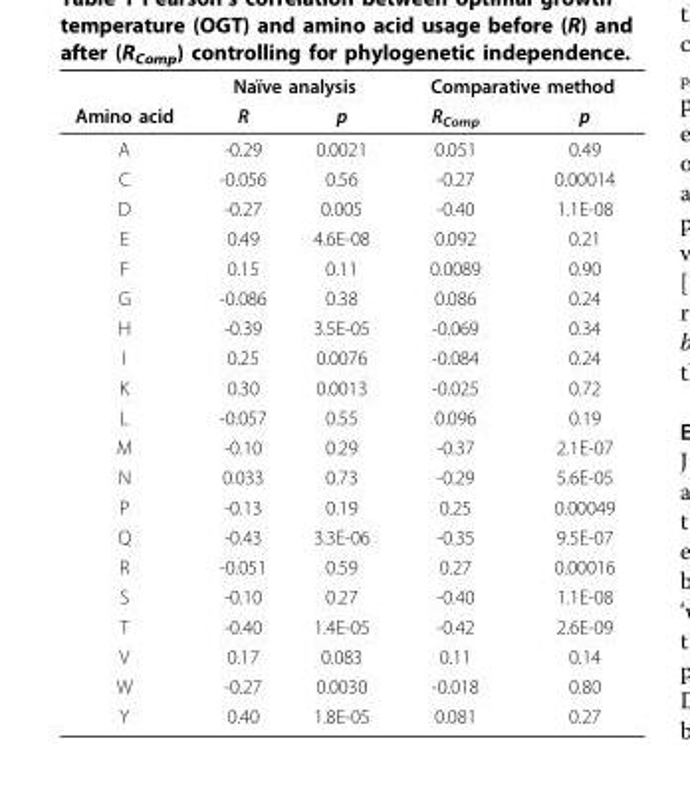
<table><thead><tr><td rowspan="2">Amino acid</td><td colspan="2">Naïve analysis</td><td colspan="2">Comparative method</td></tr><tr><td>R</td><td>p</td><td>R<sub>Comp</sub></td><td>p</td></tr></thead><tbody><tr><td>A</td><td>-0.29</td><td>0.0021</td><td>0.051</td><td>0.49</td></tr><tr><td>C</td><td>-0.056</td><td>0.56</td><td>-0.27</td><td>0.00014</td></tr><tr><td>D</td><td>-0.27</td><td>0.005</td><td>-0.40</td><td>1.1E-08</td></tr><tr><td>E</td><td>0.49</td><td>4.6E-08</td><td>0.092</td><td>0.21</td></tr><tr><td>F</td><td>0.15</td><td>0.11</td><td>0.0089</td><td>0.90</td></tr><tr><td>G</td><td>-0.086</td><td>0.38</td><td>0.086</td><td>0.24</td></tr><tr><td>H</td><td>-0.39</td><td>3.5E-05</td><td>-0.069</td><td>0.34</td></tr><tr><td>I</td><td>0.25</td><td>0.0076</td><td>-0.084</td><td>0.24</td></tr><tr><td>K</td><td>0.30</td><td>0.0013</td><td>-0.025</td><td>0.72</td></tr><tr><td>L</td><td>-0.057</td><td>0.55</td><td>0.096</td><td>0.19</td></tr><tr><td>M</td><td>-0.10</td><td>0.29</td><td>-0.37</td><td>2.1E-07</td></tr><tr><td>N</td><td>0.033</td><td>0.73</td><td>-0.29</td><td>5.6E-05</td></tr><tr><td>P</td><td>-0.13</td><td>0.19</td><td>0.25</td><td>0.00049</td></tr><tr><td>Q</td><td>-0.43</td><td>3.3E-06</td><td>-0.35</td><td>9.5E-07</td></tr><tr><td>R</td><td>-0.051</td><td>0.59</td><td>0.27</td><td>0.00016</td></tr><tr><td>S</td><td>-0.10</td><td>0.27</td><td>-0.40</td><td>1.1E-08</td></tr><tr><td>T</td><td>-0.40</td><td>1.4E-05</td><td>-0.42</td><td>2.6E-09</td></tr><tr><td>V</td><td>0.17</td><td>0.083</td><td>0.11</td><td>0.14</td></tr><tr><td>W</td><td>-0.27</td><td>0.0030</td><td>-0.018</td><td>0.80</td></tr><tr><td>Y</td><td>0.40</td><td>1.8E-05</td><td>0.081</td><td>0.27</td></tr></tbody></table>